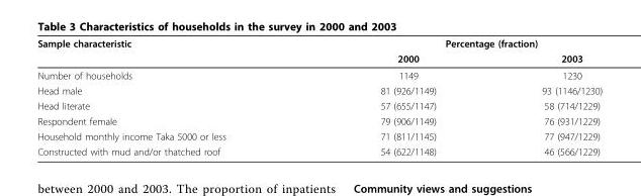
<table><thead><tr><td rowspan="2">Sample characteristic</td><td colspan="2">Percentage (fraction)</td></tr><tr><td>2000</td><td>2003</td></tr></thead><tbody><tr><td>Number of households</td><td>1149</td><td>1230</td></tr><tr><td>Head male</td><td>81 (926/1149)</td><td>93 (1146/1230)</td></tr><tr><td>Head literate</td><td>57 (655/1147)</td><td>58 (714/1229)</td></tr><tr><td>Respondent female</td><td>79 (906/1149)</td><td>76 (931/1229)</td></tr><tr><td>Household monthly income Taka 5000 or less</td><td>71 (811/1145)</td><td>77 (947/1229)</td></tr><tr><td>Constructed with mud and/or thatched roof</td><td>54 (622/1148)</td><td>46 (566/1229)</td></tr></tbody></table>